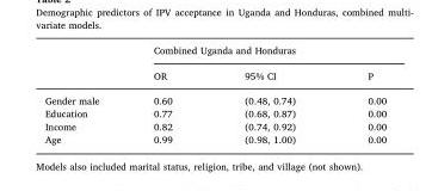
<table><thead><tr><td rowspan="2"></td><td colspan="3">Combined Uganda and Honduras</td></tr><tr><td>OR</td><td>95% CI</td><td>P</td></tr></thead><tbody><tr><td>Gender male</td><td>0.60</td><td>(0.48, 0.74)</td><td>0.00</td></tr><tr><td>Education</td><td>0.77</td><td>(0.68, 0.87)</td><td>0.00</td></tr><tr><td>Income</td><td>0.82</td><td>(0.74, 0.92)</td><td>0.00</td></tr><tr><td>Age</td><td>0.99</td><td>(0.98, 1.00)</td><td>0.00</td></tr></tbody></table>